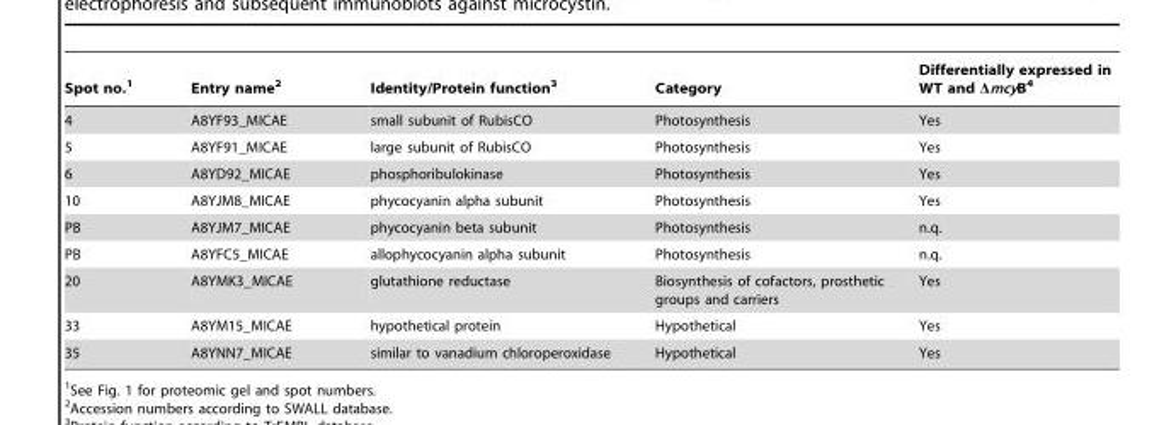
<table><thead><tr><td>Spot no.<sup>1</sup></td><td>Entry name<sup>2</sup></td><td>Identity/Protein function<sup>3</sup></td><td>Category</td><td>Differentially expressed in WT and ΔmcyB<sup>4</sup></td></tr></thead><tbody><tr><td>4</td><td>A8YF93_MICAE</td><td>small subunit of RubisCO</td><td>Photosynthesis</td><td>Yes</td></tr><tr><td>5</td><td>A8YF91_MICAE</td><td>large subunit of RubisCO</td><td>Photosynthesis</td><td>Yes</td></tr><tr><td>6</td><td>A8YD92_MICAE</td><td>phosphoribulokinase</td><td>Photosynthesis</td><td>Yes</td></tr><tr><td>10</td><td>A8YJM8_MICAE</td><td>phycocyanin alpha subunit</td><td>Photosynthesis</td><td>Yes</td></tr><tr><td>PB</td><td>A8YJM7_MICAE</td><td>phycocyanin beta subunit</td><td>Photosynthesis</td><td>n.q.</td></tr><tr><td>PB</td><td>A8YFC5_MICAE</td><td>allophycocyanin alpha subunit</td><td>Photosynthesis</td><td>n.q.</td></tr><tr><td>20</td><td>A8YMK3_MICAE</td><td>glutathione reductase</td><td>Biosynthesis of cofactors, prosthetic groups and carriers</td><td>Yes</td></tr><tr><td>33</td><td>A8YM15_MICAE</td><td>hypothetical protein</td><td>Hypothetical</td><td>Yes</td></tr><tr><td>35</td><td>A8YNN7_MICAE</td><td>similar to vanadium chloroperoxidase</td><td>Hypothetical</td><td>Yes</td></tr></tbody></table>